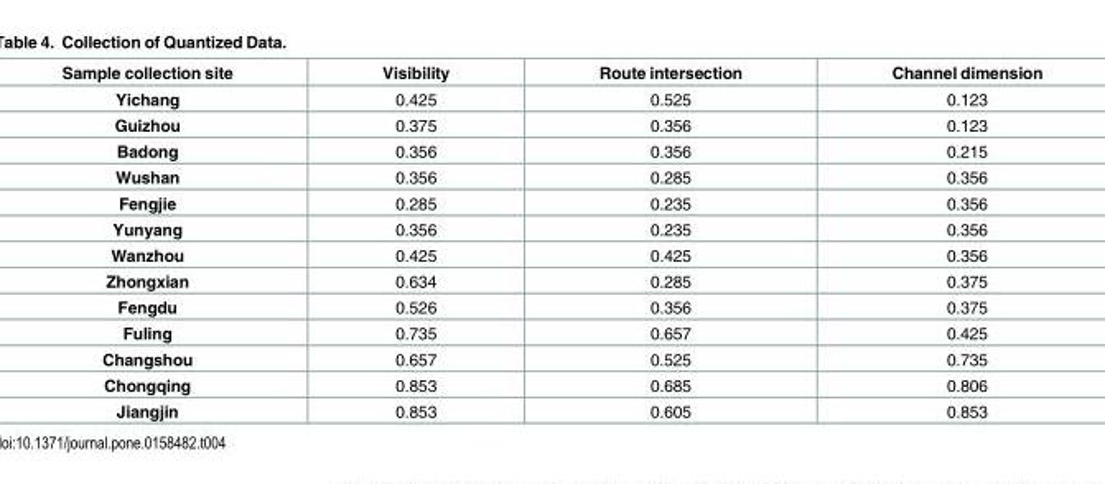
<table><thead><tr><td>Sample collection site</td><td>Visibility</td><td>Route intersection</td><td>Channel dimension</td></tr></thead><tbody><tr><td>Yichang</td><td>0.425</td><td>0.525</td><td>0.123</td></tr><tr><td>Guizhou</td><td>0.375</td><td>0.356</td><td>0.123</td></tr><tr><td>Badong</td><td>0.356</td><td>0.356</td><td>0.215</td></tr><tr><td>Wushan</td><td>0.356</td><td>0.285</td><td>0.356</td></tr><tr><td>Fengjie</td><td>0.285</td><td>0.235</td><td>0.356</td></tr><tr><td>Yunyang</td><td>0.356</td><td>0.235</td><td>0.356</td></tr><tr><td>Wanzhou</td><td>0.425</td><td>0.425</td><td>0.356</td></tr><tr><td>Zhongxian</td><td>0.634</td><td>0.285</td><td>0.375</td></tr><tr><td>Fengdu</td><td>0.526</td><td>0.356</td><td>0.375</td></tr><tr><td>Fuling</td><td>0.735</td><td>0.657</td><td>0.425</td></tr><tr><td>Changshou</td><td>0.657</td><td>0.525</td><td>0.735</td></tr><tr><td>Chongqing</td><td>0.853</td><td>0.685</td><td>0.806</td></tr><tr><td>Jiangjin</td><td>0.853</td><td>0.605</td><td>0.853</td></tr></tbody></table>